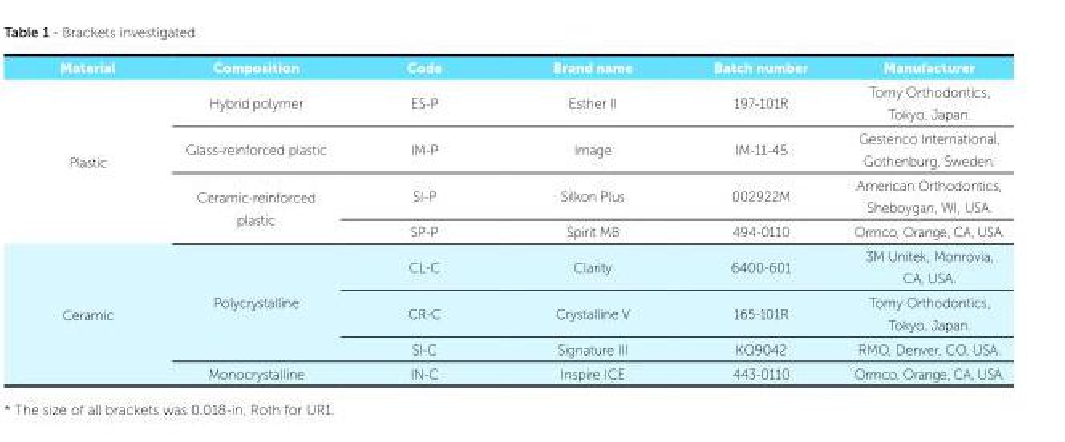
<table><thead><tr><td>Material</td><td>Composition</td><td>Code</td><td>Brand name</td><td>Batch number</td><td>Manufacturer</td></tr></thead><tbody><tr><td rowspan="4">Plastic</td><td>Hybrid polymer</td><td>ES-P</td><td>Esther II</td><td>197-101R</td><td>Tomy Orthodontics, Tokyo, Japan.</td></tr><tr><td>Glass-reinforced plastic</td><td>IM-P</td><td>Image</td><td>IM-11-45</td><td>Gestenco International, Gothenburg, Sweden.</td></tr><tr><td rowspan="2">Ceramic-reinforced plastic</td><td>SI-P</td><td>Silkon Plus</td><td>002922M</td><td>American Orthodontics, Sheboygan, WI, USA.</td></tr><tr><td>SP-P</td><td>Spirit MB</td><td>494-0110</td><td>Ormco, Orange, CA, USA.</td></tr><tr><td rowspan="4">Ceramic</td><td rowspan="3">Polycrystalline</td><td>CL-C</td><td>Clarity</td><td>6400-601</td><td>3M Unitek, Monrovia, CA, USA.</td></tr><tr><td>CR-C</td><td>Crystalline V</td><td>165-101R</td><td>Tomy Orthodontics, Tokyo, Japan.</td></tr><tr><td>SI-C</td><td>Signature III</td><td>KQ9042</td><td>RMO, Denver, CO, USA.</td></tr><tr><td>Monocrystalline</td><td>IN-C</td><td>Inspire ICE</td><td>443-0110</td><td>Ormco, Orange, CA, USA.</td></tr></tbody></table>